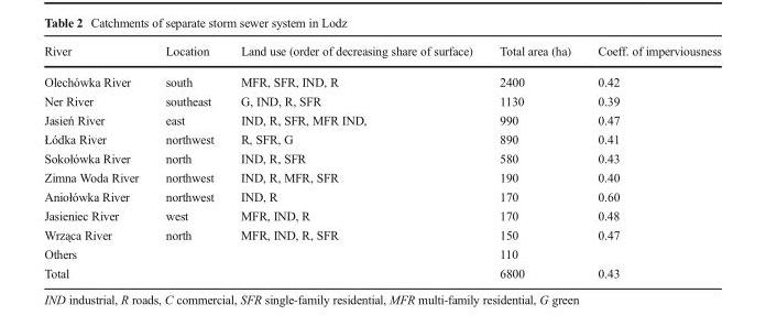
<table><thead><tr><td>River</td><td>Location</td><td>Land use (order of decreasing share of surface)</td><td>Total area (ha)</td><td>Coeff. of imperviousness</td></tr></thead><tbody><tr><td>Olechówka River</td><td>south</td><td>MFR, SFR, IND, R</td><td>2400</td><td>0.42</td></tr><tr><td>Ner River</td><td>southeast</td><td>G, IND, R, SFR</td><td>1130</td><td>0.39</td></tr><tr><td>Jasień River</td><td>east</td><td>IND, R, SFR, MFR IND,</td><td>990</td><td>0.47</td></tr><tr><td>Łódka River</td><td>northwest</td><td>R, SFR, G</td><td>890</td><td>0.41</td></tr><tr><td>Sokołówka River</td><td>north</td><td>IND, R, SFR</td><td>580</td><td>0.43</td></tr><tr><td>Zimna Woda River</td><td>northwest</td><td>IND, R, MFR, SFR</td><td>190</td><td>0.40</td></tr><tr><td>Aniołówka River</td><td>northwest</td><td>IND, R</td><td>170</td><td>0.60</td></tr><tr><td>Jasieniec River</td><td>west</td><td>MFR, IND, R</td><td>170</td><td>0.48</td></tr><tr><td>Wrząca River</td><td>north</td><td>MFR, IND, R, SFR</td><td>150</td><td>0.47</td></tr><tr><td>Others</td><td></td><td></td><td>110</td><td></td></tr><tr><td>Total</td><td></td><td></td><td>6800</td><td>0.43</td></tr></tbody></table>